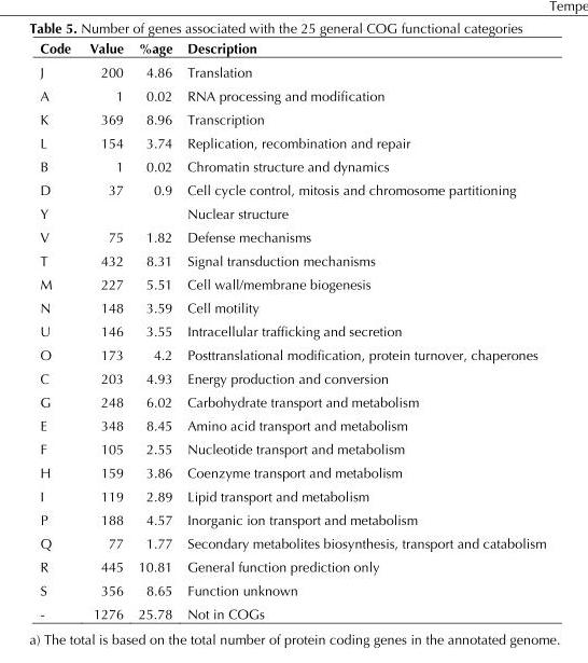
<table><thead><tr><td>Code</td><td>Value</td><td>%age</td><td>Description</td></tr></thead><tbody><tr><td>J</td><td>200</td><td>4.86</td><td>Translation</td></tr><tr><td>A</td><td>1</td><td>0.02</td><td>RNA processing and modification</td></tr><tr><td>K</td><td>369</td><td>8.96</td><td>Transcription</td></tr><tr><td>L</td><td>154</td><td>3.74</td><td>Replication, recombination and repair</td></tr><tr><td>B</td><td>1</td><td>0.02</td><td>Chromatin structure and dynamics</td></tr><tr><td>D</td><td>37</td><td>0.9</td><td>Cell cycle control, mitosis and chromosome partitioning</td></tr><tr><td>Y</td><td></td><td></td><td>Nuclear structure</td></tr><tr><td>V</td><td>75</td><td>1.82</td><td>Defense mechanisms</td></tr><tr><td>T</td><td>432</td><td>8.31</td><td>Signal transduction mechanisms</td></tr><tr><td>M</td><td>227</td><td>5.51</td><td>Cell wall/membrane biogenesis</td></tr><tr><td>N</td><td>148</td><td>3.59</td><td>Cell motility</td></tr><tr><td>U</td><td>146</td><td>3.55</td><td>Intracellular trafficking and secretion</td></tr><tr><td>O</td><td>173</td><td>4.2</td><td>Posttranslational modification, protein turnover, chaperones</td></tr><tr><td>C</td><td>203</td><td>4.93</td><td>Energy production and conversion</td></tr><tr><td>G</td><td>248</td><td>6.02</td><td>Carbohydrate transport and metabolism</td></tr><tr><td>E</td><td>348</td><td>8.45</td><td>Amino acid transport and metabolism</td></tr><tr><td>F</td><td>105</td><td>2.55</td><td>Nucleotide transport and metabolism</td></tr><tr><td>H</td><td>159</td><td>3.86</td><td>Coenzyme transport and metabolism</td></tr><tr><td>I</td><td>119</td><td>2.89</td><td>Lipid transport and metabolism</td></tr><tr><td>P</td><td>188</td><td>4.57</td><td>Inorganic ion transport and metabolism</td></tr><tr><td>Q</td><td>77</td><td>1.77</td><td>Secondary metabolites biosynthesis, transport and catabolism</td></tr><tr><td>R</td><td>445</td><td>10.81</td><td>General function prediction only</td></tr><tr><td>S</td><td>356</td><td>8.65</td><td>Function unknown</td></tr><tr><td>-</td><td>1276</td><td>25.78</td><td>Not in COGs</td></tr></tbody></table>